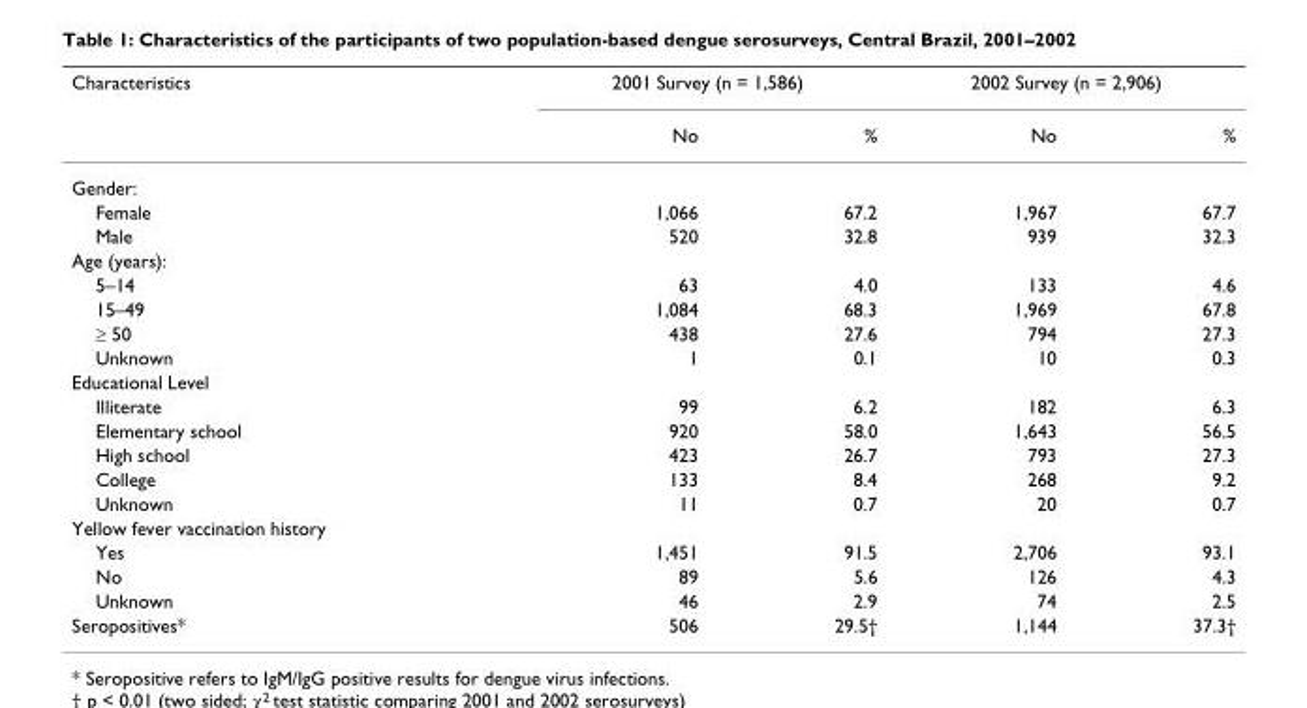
<table><thead><tr><td rowspan="2">Characteristics</td><td colspan="2">2001 Survey (n = 1,586)</td><td colspan="2">2002 Survey (n = 2,906)</td></tr><tr><td>No</td><td>%</td><td>No</td><td>%</td></tr></thead><tbody><tr><td colspan="5">Gender:</td></tr><tr><td>Female</td><td>1,066</td><td>67.2</td><td>1,967</td><td>67.7</td></tr><tr><td>Male</td><td>520</td><td>32.8</td><td>939</td><td>32.3</td></tr><tr><td colspan="5">Age (years):</td></tr><tr><td>5–14</td><td>63</td><td>4.0</td><td>133</td><td>4.6</td></tr><tr><td>15–49</td><td>1,084</td><td>68.3</td><td>1,969</td><td>67.8</td></tr><tr><td>≥ 50</td><td>438</td><td>27.6</td><td>794</td><td>27.3</td></tr><tr><td>Unknown</td><td>1</td><td>0.1</td><td>10</td><td>0.3</td></tr><tr><td colspan="5">Educational Level</td></tr><tr><td>Illiterate</td><td>99</td><td>6.2</td><td>182</td><td>6.3</td></tr><tr><td>Elementary school</td><td>920</td><td>58.0</td><td>1,643</td><td>56.5</td></tr><tr><td>High school</td><td>423</td><td>26.7</td><td>793</td><td>27.3</td></tr><tr><td>College</td><td>133</td><td>8.4</td><td>268</td><td>9.2</td></tr><tr><td>Unknown</td><td>11</td><td>0.7</td><td>20</td><td>0.7</td></tr><tr><td colspan="5">Yellow fever vaccination history</td></tr><tr><td>Yes</td><td>1,451</td><td>91.5</td><td>2,706</td><td>93.1</td></tr><tr><td>No</td><td>89</td><td>5.6</td><td>126</td><td>4.3</td></tr><tr><td>Unknown</td><td>46</td><td>2.9</td><td>74</td><td>2.5</td></tr><tr><td>Seropositives*</td><td>506</td><td>29.5†</td><td>1,144</td><td>37.3†</td></tr></tbody></table>